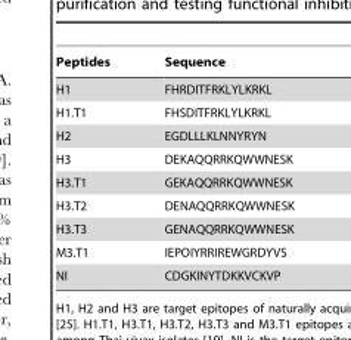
<table><thead><tr><td>Peptides</td><td>Sequence</td></tr></thead><tbody><tr><td>H1</td><td>FHRDITFRKLYLKRKL</td></tr><tr><td>H1.T1</td><td>FHSDITFRKLYLKRKL</td></tr><tr><td>H2</td><td>EGDLLLKLNNYRYN</td></tr><tr><td>H3</td><td>DEKAQQRRKQWWNESK</td></tr><tr><td>H3.T1</td><td>GEKAQQRRKQWWNESK</td></tr><tr><td>H3.T2</td><td>DENAQQRRKQWWNESK</td></tr><tr><td>H3.T3</td><td>GENAQQRRKQWWNESK</td></tr><tr><td>M3.T1</td><td>IEPOIYRRIREWGRDYVS</td></tr><tr><td>NI</td><td>CDGKINYTDKKVCKVP</td></tr></tbody></table>